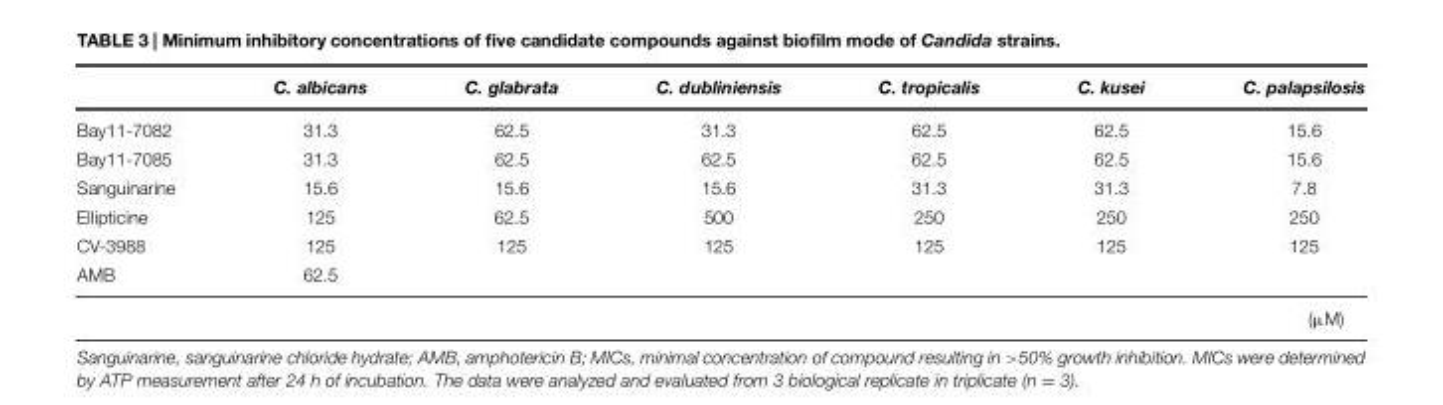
<table><thead><tr><td></td><td>C. albicans</td><td>C. glabrata</td><td>C. dubliniensis</td><td>C. tropicalis</td><td>C. kusei</td><td>C. palapsilosis</td></tr></thead><tbody><tr><td>Bay11-7082</td><td>31.3</td><td>62.5</td><td>31.3</td><td>62.5</td><td>62.5</td><td>15.6</td></tr><tr><td>Bay11-7085</td><td>31.3</td><td>62.5</td><td>62.5</td><td>62.5</td><td>62.5</td><td>15.6</td></tr><tr><td>Sanguinarine</td><td>15.6</td><td>15.6</td><td>15.6</td><td>31.3</td><td>31.3</td><td>7.8</td></tr><tr><td>Ellipticine</td><td>125</td><td>62.5</td><td>500</td><td>250</td><td>250</td><td>250</td></tr><tr><td>CV-3988</td><td>125</td><td>125</td><td>125</td><td>125</td><td>125</td><td>125</td></tr><tr><td rowspan="2">AMB</td><td>62.5</td><td></td><td></td><td></td><td></td><td></td></tr><tr><td></td><td></td><td></td><td></td><td></td><td>(μM)</td></tr></tbody></table>